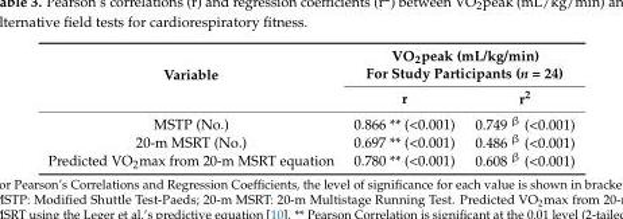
<table><thead><tr><td rowspan="2">Variable</td><td colspan="2">VO<sub>2</sub>peak (mL/kg/min) For Study Participants (n = 24)</td></tr><tr><td>r</td><td>r<sup>2</sup></td></tr></thead><tbody><tr><td>MSTP (No.)</td><td>0.866 ** (&lt;0.001)</td><td>0.749 <sup>β</sup> (&lt;0.001)</td></tr><tr><td>20-m MSRT (No.)</td><td>0.697 ** (&lt;0.001)</td><td>0.486 <sup>β</sup> (&lt;0.001)</td></tr><tr><td>Predicted VO<sub>2</sub>max from 20-m MSRT equation</td><td>0.780 ** (&lt;0.001)</td><td>0.608 <sup>β</sup> (&lt;0.001)</td></tr></tbody></table>